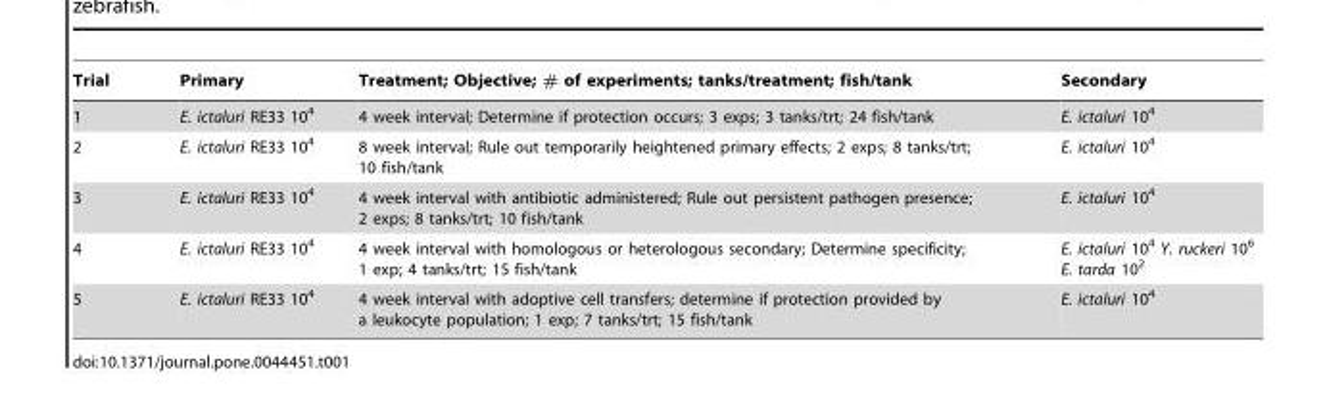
<table><thead><tr><td>Trial</td><td>Primary</td><td>Treatment; Objective; # of experiments; tanks/treatment; fish/tank</td><td>Secondary</td></tr></thead><tbody><tr><td>1</td><td>E. ictaluri RE33 10<sup>4</sup></td><td>4 week interval; Determine if protection occurs; 3 exps; 3 tanks/trt; 24 fish/tank</td><td>E. ictaluri 10<sup>4</sup></td></tr><tr><td>2</td><td>E. ictaluri RE33 10<sup>4</sup></td><td>8 week interval; Rule out temporarily heightened primary effects; 2 exps; 8 tanks/trt; 10 fish/tank</td><td>E. ictaluri 10<sup>4</sup></td></tr><tr><td>3</td><td>E. ictaluri RE33 10<sup>4</sup></td><td>4 week interval with antibiotic administered; Rule out persistent pathogen presence; 2 exps; 8 tanks/trt; 10 fish/tank</td><td>E. ictaluri 10<sup>4</sup></td></tr><tr><td>4</td><td>E. ictaluri RE33 10<sup>4</sup></td><td>4 week interval with homologous or heterologous secondary; Determine specificity; 1 exp; 4 tanks/trt; 15 fish/tank</td><td>E. ictaluri 10<sup>4</sup> Y. ruckeri 10<sup>6</sup> E. tarda 10<sup>2</sup></td></tr><tr><td>5</td><td>E. ictaluri RE33 10<sup>4</sup></td><td>4 week interval with adoptive cell transfers; determine if protection provided by a leukocyte population; 1 exp; 7 tanks/trt; 15 fish/tank</td><td>E. ictaluri 10<sup>4</sup></td></tr></tbody></table>